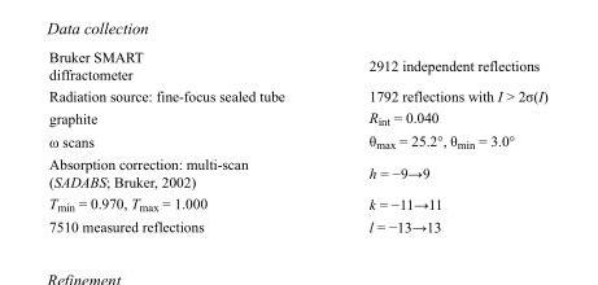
<table><tbody><tr><td>Bruker SMART diffractometer</td><td>2912 independent reflections</td></tr><tr><td>Radiation source: fine-focus sealed tube</td><td>1792 reflections with I &gt; 2σ(I)</td></tr><tr><td>graphite</td><td>R<sub>int</sub> = 0.040</td></tr><tr><td>ω scans</td><td>θ<sub>max</sub> = 25.2°, θ<sub>min</sub> = 3.0°</td></tr><tr><td>Absorption correction: multi-scan (SADABS; Bruker, 2002)</td><td>h = −9→9</td></tr><tr><td>T<sub>min</sub> = 0.970, T<sub>max</sub> = 1.000</td><td>k = −11→11</td></tr><tr><td>7510 measured reflections</td><td>l = −13→13</td></tr></tbody></table>